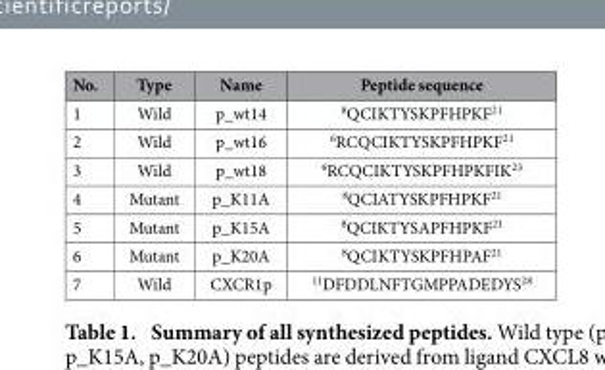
<table><thead><tr><td>No.</td><td>Type</td><td>Name</td><td>Peptide sequence</td></tr></thead><tbody><tr><td>1</td><td>Wild</td><td>p_wt14</td><td><sup>8</sup>QCIKTYSKPFHPKF<sup>21</sup></td></tr><tr><td>2</td><td>Wild</td><td>p_wt16</td><td><sup>6</sup>RCQCIKTYSKPFHPKF<sup>21</sup></td></tr><tr><td>3</td><td>Wild</td><td>p_wt18</td><td><sup>6</sup>RCQCIKTYSKPFHPKFIK<sup>23</sup></td></tr><tr><td>4</td><td>Mutant</td><td>p_K11A</td><td><sup>8</sup>QCIATYSKPFHPKF<sup>21</sup></td></tr><tr><td>5</td><td>Mutant</td><td>p_K15A</td><td><sup>8</sup>QCIKTYSAPFHPKF<sup>21</sup></td></tr><tr><td>6</td><td>Mutant</td><td>p_K20A</td><td><sup>8</sup>QCIKTYSKPFHPAF<sup>21</sup></td></tr><tr><td>7</td><td>Wild</td><td>CXCR1p</td><td><sup>11</sup>DFDDLNFTGMPPADEDYS<sup>28</sup></td></tr></tbody></table>